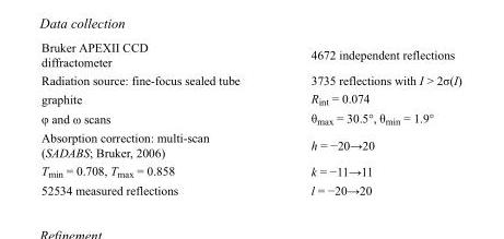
<table><tbody><tr><td>Bruker APEXII CCD diffractometer</td><td>4672 independent reflections</td></tr><tr><td>Radiation source: fine-focus sealed tube</td><td>3735 reflections with I &gt; 2σ(I)</td></tr><tr><td>graphite</td><td>R<sub>int</sub> = 0.074</td></tr><tr><td>φ and ω scans</td><td>θ<sub>max</sub> = 30.5°, θ<sub>min</sub> = 1.9°</td></tr><tr><td>Absorption correction: multi-scan (SADABS; Bruker, 2006)</td><td>h = −20→20</td></tr><tr><td>T<sub>min</sub> = 0.708, T<sub>max</sub> = 0.858</td><td>k = −11→11</td></tr><tr><td>52534 measured reflections</td><td>l = −20→20</td></tr></tbody></table>